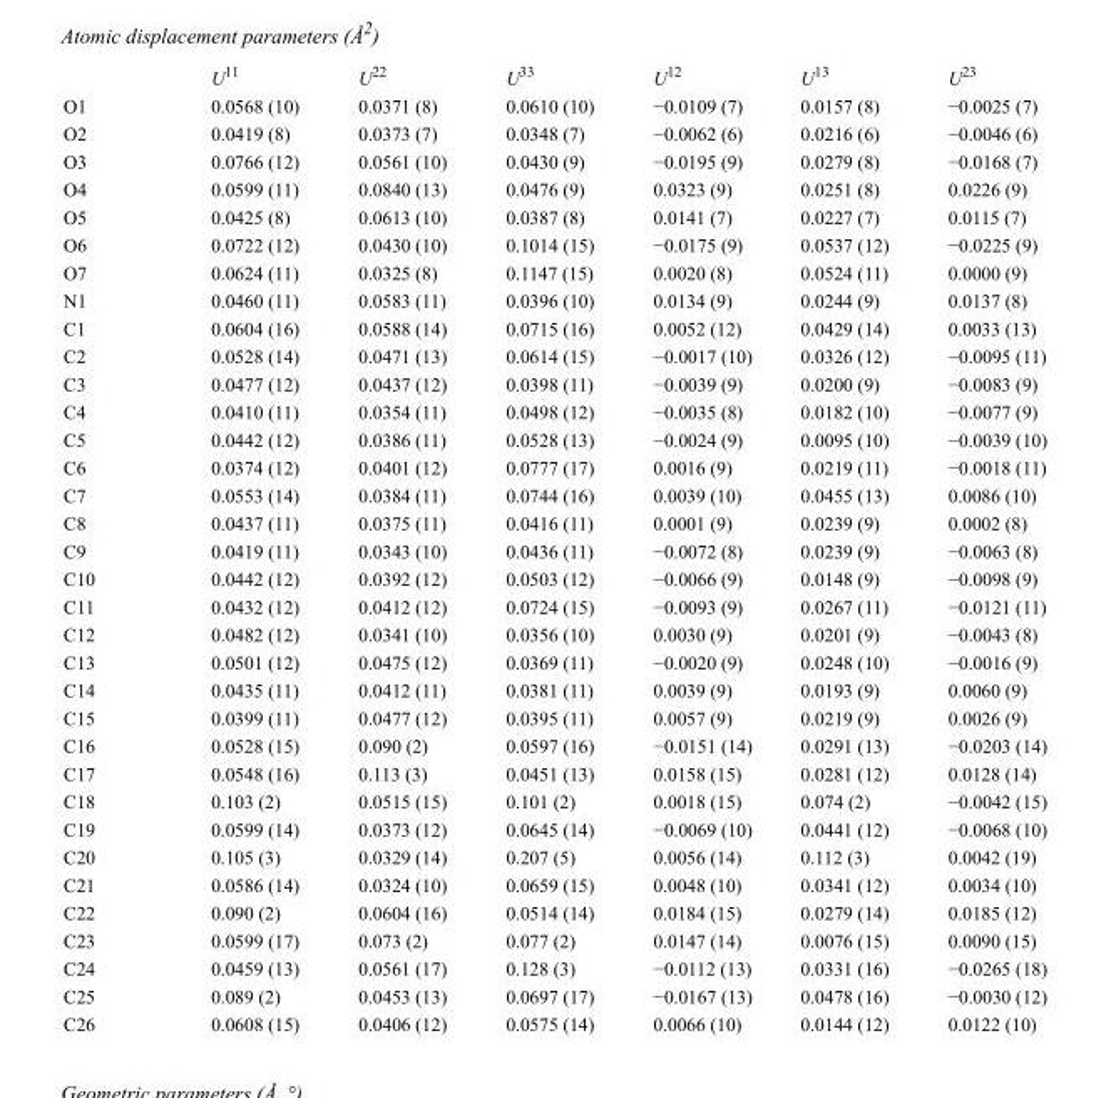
<table><thead><tr><td></td><td>U<sup>11</sup></td><td>U<sup>22</sup></td><td>U<sup>33</sup></td><td>U<sup>12</sup></td><td>U<sup>13</sup></td><td>U<sup>23</sup></td></tr></thead><tbody><tr><td>O1</td><td>0.0568 (10)</td><td>0.0371 (8)</td><td>0.0610 (10)</td><td>−0.0109 (7)</td><td>0.0157 (8)</td><td>−0.0025 (7)</td></tr><tr><td>O2</td><td>0.0419 (8)</td><td>0.0373 (7)</td><td>0.0348 (7)</td><td>−0.0062 (6)</td><td>0.0216 (6)</td><td>−0.0046 (6)</td></tr><tr><td>O3</td><td>0.0766 (12)</td><td>0.0561 (10)</td><td>0.0430 (9)</td><td>−0.0195 (9)</td><td>0.0279 (8)</td><td>−0.0168 (7)</td></tr><tr><td>O4</td><td>0.0599 (11)</td><td>0.0840 (13)</td><td>0.0476 (9)</td><td>0.0323 (9)</td><td>0.0251 (8)</td><td>0.0226 (9)</td></tr><tr><td>O5</td><td>0.0425 (8)</td><td>0.0613 (10)</td><td>0.0387 (8)</td><td>0.0141 (7)</td><td>0.0227 (7)</td><td>0.0115 (7)</td></tr><tr><td>O6</td><td>0.0722 (12)</td><td>0.0430 (10)</td><td>0.1014 (15)</td><td>−0.0175 (9)</td><td>0.0537 (12)</td><td>−0.0225 (9)</td></tr><tr><td>O7</td><td>0.0624 (11)</td><td>0.0325 (8)</td><td>0.1147 (15)</td><td>0.0020 (8)</td><td>0.0524 (11)</td><td>0.0000 (9)</td></tr><tr><td>N1</td><td>0.0460 (11)</td><td>0.0583 (11)</td><td>0.0396 (10)</td><td>0.0134 (9)</td><td>0.0244 (9)</td><td>0.0137 (8)</td></tr><tr><td>C1</td><td>0.0604 (16)</td><td>0.0588 (14)</td><td>0.0715 (16)</td><td>0.0052 (12)</td><td>0.0429 (14)</td><td>0.0033 (13)</td></tr><tr><td>C2</td><td>0.0528 (14)</td><td>0.0471 (13)</td><td>0.0614 (15)</td><td>−0.0017 (10)</td><td>0.0326 (12)</td><td>−0.0095 (11)</td></tr><tr><td>C3</td><td>0.0477 (12)</td><td>0.0437 (12)</td><td>0.0398 (11)</td><td>−0.0039 (9)</td><td>0.0200 (9)</td><td>−0.0083 (9)</td></tr><tr><td>C4</td><td>0.0410 (11)</td><td>0.0354 (11)</td><td>0.0498 (12)</td><td>−0.0035 (8)</td><td>0.0182 (10)</td><td>−0.0077 (9)</td></tr><tr><td>C5</td><td>0.0442 (12)</td><td>0.0386 (11)</td><td>0.0528 (13)</td><td>−0.0024 (9)</td><td>0.0095 (10)</td><td>−0.0039 (10)</td></tr><tr><td>C6</td><td>0.0374 (12)</td><td>0.0401 (12)</td><td>0.0777 (17)</td><td>0.0016 (9)</td><td>0.0219 (11)</td><td>−0.0018 (11)</td></tr><tr><td>C7</td><td>0.0553 (14)</td><td>0.0384 (11)</td><td>0.0744 (16)</td><td>0.0039 (10)</td><td>0.0455 (13)</td><td>0.0086 (10)</td></tr><tr><td>C8</td><td>0.0437 (11)</td><td>0.0375 (11)</td><td>0.0416 (11)</td><td>0.0001 (9)</td><td>0.0239 (9)</td><td>0.0002 (8)</td></tr><tr><td>C9</td><td>0.0419 (11)</td><td>0.0343 (10)</td><td>0.0436 (11)</td><td>−0.0072 (8)</td><td>0.0239 (9)</td><td>−0.0063 (8)</td></tr><tr><td>C10</td><td>0.0442 (12)</td><td>0.0392 (12)</td><td>0.0503 (12)</td><td>−0.0066 (9)</td><td>0.0148 (9)</td><td>−0.0098 (9)</td></tr><tr><td>C11</td><td>0.0432 (12)</td><td>0.0412 (12)</td><td>0.0724 (15)</td><td>−0.0093 (9)</td><td>0.0267 (11)</td><td>−0.0121 (11)</td></tr><tr><td>C12</td><td>0.0482 (12)</td><td>0.0341 (10)</td><td>0.0356 (10)</td><td>0.0030 (9)</td><td>0.0201 (9)</td><td>−0.0043 (8)</td></tr><tr><td>C13</td><td>0.0501 (12)</td><td>0.0475 (12)</td><td>0.0369 (11)</td><td>−0.0020 (9)</td><td>0.0248 (10)</td><td>−0.0016 (9)</td></tr><tr><td>C14</td><td>0.0435 (11)</td><td>0.0412 (11)</td><td>0.0381 (11)</td><td>0.0039 (9)</td><td>0.0193 (9)</td><td>0.0060 (9)</td></tr><tr><td>C15</td><td>0.0399 (11)</td><td>0.0477 (12)</td><td>0.0395 (11)</td><td>0.0057 (9)</td><td>0.0219 (9)</td><td>0.0026 (9)</td></tr><tr><td>C16</td><td>0.0528 (15)</td><td>0.090 (2)</td><td>0.0597 (16)</td><td>−0.0151 (14)</td><td>0.0291 (13)</td><td>−0.0203 (14)</td></tr><tr><td>C17</td><td>0.0548 (16)</td><td>0.113 (3)</td><td>0.0451 (13)</td><td>0.0158 (15)</td><td>0.0281 (12)</td><td>0.0128 (14)</td></tr><tr><td>C18</td><td>0.103 (2)</td><td>0.0515 (15)</td><td>0.101 (2)</td><td>0.0018 (15)</td><td>0.074 (2)</td><td>−0.0042 (15)</td></tr><tr><td>C19</td><td>0.0599 (14)</td><td>0.0373 (12)</td><td>0.0645 (14)</td><td>−0.0069 (10)</td><td>0.0441 (12)</td><td>−0.0068 (10)</td></tr><tr><td>C20</td><td>0.105 (3)</td><td>0.0329 (14)</td><td>0.207 (5)</td><td>0.0056 (14)</td><td>0.112 (3)</td><td>0.0042 (19)</td></tr><tr><td>C21</td><td>0.0586 (14)</td><td>0.0324 (10)</td><td>0.0659 (15)</td><td>0.0048 (10)</td><td>0.0341 (12)</td><td>0.0034 (10)</td></tr><tr><td>C22</td><td>0.090 (2)</td><td>0.0604 (16)</td><td>0.0514 (14)</td><td>0.0184 (15)</td><td>0.0279 (14)</td><td>0.0185 (12)</td></tr><tr><td>C23</td><td>0.0599 (17)</td><td>0.073 (2)</td><td>0.077 (2)</td><td>0.0147 (14)</td><td>0.0076 (15)</td><td>0.0090 (15)</td></tr><tr><td>C24</td><td>0.0459 (13)</td><td>0.0561 (17)</td><td>0.128 (3)</td><td>−0.0112 (13)</td><td>0.0331 (16)</td><td>−0.0265 (18)</td></tr><tr><td>C25</td><td>0.089 (2)</td><td>0.0453 (13)</td><td>0.0697 (17)</td><td>−0.0167 (13)</td><td>0.0478 (16)</td><td>−0.0030 (12)</td></tr><tr><td>C26</td><td>0.0608 (15)</td><td>0.0406 (12)</td><td>0.0575 (14)</td><td>0.0066 (10)</td><td>0.0144 (12)</td><td>0.0122 (10)</td></tr></tbody></table>